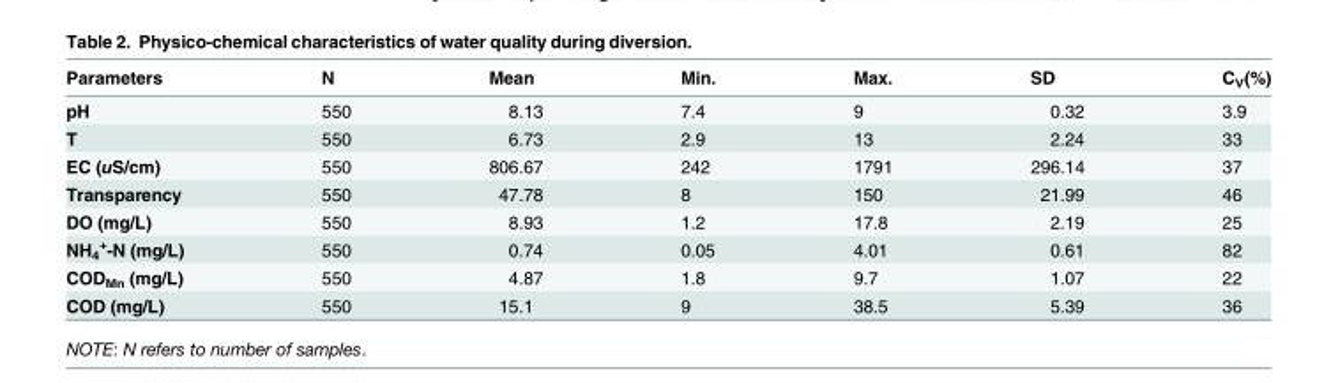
<table><thead><tr><td>Parameters</td><td>N</td><td>Mean</td><td>Min.</td><td>Max.</td><td>SD</td><td>C<sub>V</sub>(%)</td></tr></thead><tbody><tr><td>pH</td><td>550</td><td>8.13</td><td>7.4</td><td>9</td><td>0.32</td><td>3.9</td></tr><tr><td>T</td><td>550</td><td>6.73</td><td>2.9</td><td>13</td><td>2.24</td><td>33</td></tr><tr><td>EC (uS/cm)</td><td>550</td><td>806.67</td><td>242</td><td>1791</td><td>296.14</td><td>37</td></tr><tr><td>Transparency</td><td>550</td><td>47.78</td><td>8</td><td>150</td><td>21.99</td><td>46</td></tr><tr><td>DO (mg/L)</td><td>550</td><td>8.93</td><td>1.2</td><td>17.8</td><td>2.19</td><td>25</td></tr><tr><td>NH<sub>4</sub> <sup>+</sup>-N (mg/L)</td><td>550</td><td>0.74</td><td>0.05</td><td>4.01</td><td>0.61</td><td>82</td></tr><tr><td>COD<sub>Mn</sub> (mg/L)</td><td>550</td><td>4.87</td><td>1.8</td><td>9.7</td><td>1.07</td><td>22</td></tr><tr><td>COD (mg/L)</td><td>550</td><td>15.1</td><td>9</td><td>38.5</td><td>5.39</td><td>36</td></tr></tbody></table>